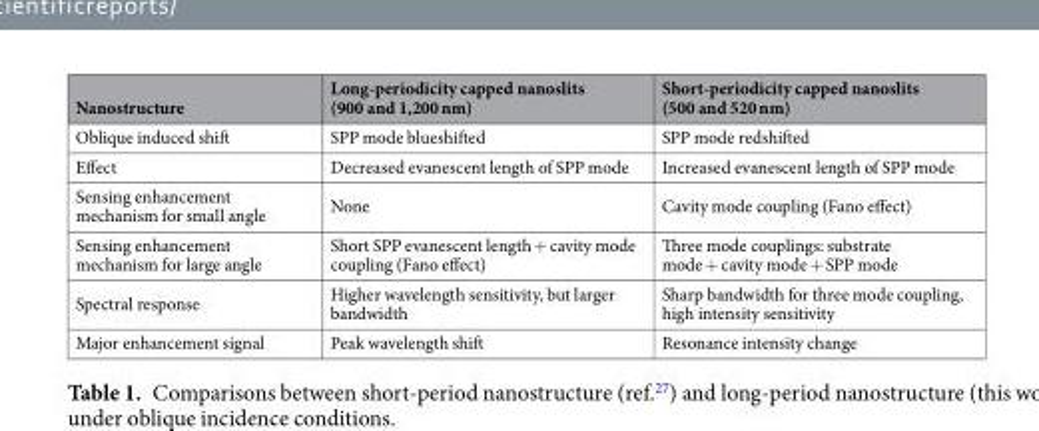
<table><thead><tr><td>Nanostructure</td><td>Long-periodicity capped nanoslits (900 and 1,200 nm)</td><td>Short-periodicity capped nanoslits (500 and 520 nm)</td></tr></thead><tbody><tr><td>Oblique induced shift</td><td>SPP mode blueshifted</td><td>SPP mode redshifted</td></tr><tr><td>Effect</td><td>Decreased evanescent length of SPP mode</td><td>Increased evanescent length of SPP mode</td></tr><tr><td>Sensing enhancement mechanism for small angle</td><td>None</td><td>Cavity mode coupling (Fano effect)</td></tr><tr><td>Sensing enhancement mechanism for large angle</td><td>Short SPP evanescent length + cavity mode coupling (Fano effect)</td><td>Three mode couplings: substrate mode + cavity mode + SPP mode</td></tr><tr><td>Spectral response</td><td>Higher wavelength sensitivity, but larger bandwidth</td><td>Sharp bandwidth for three mode coupling, high intensity sensitivity</td></tr><tr><td>Major enhancement signal</td><td>Peak wavelength shift</td><td>Resonance intensity change</td></tr></tbody></table>